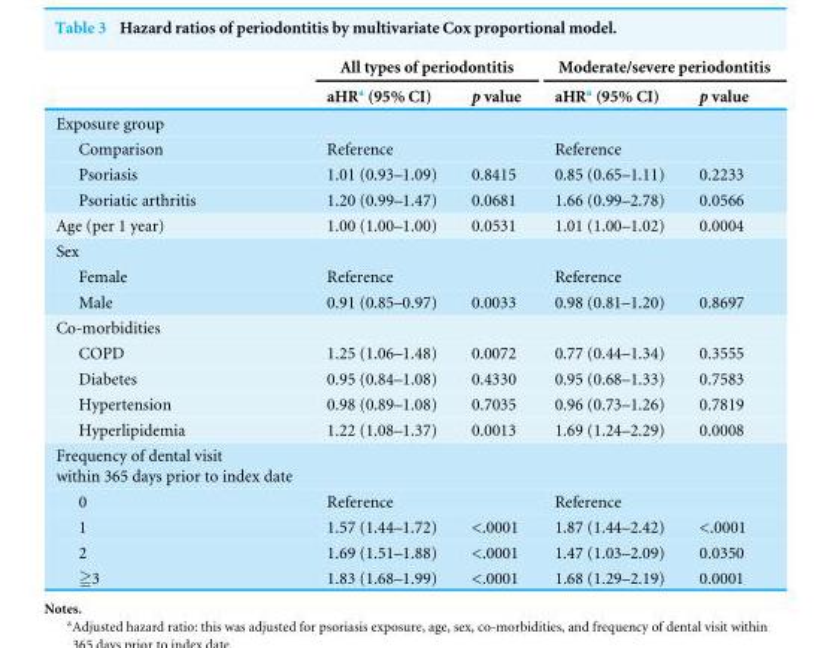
<table><thead><tr><td rowspan="2"></td><td colspan="2">All types of periodontitis</td><td colspan="2">Moderate/severe periodontitis</td></tr><tr><td>aHR<sup>a</sup> (95% CI)</td><td>p value</td><td>aHR<sup>a</sup> (95% CI)</td><td>p value</td></tr></thead><tbody><tr><td colspan="5">Exposure group</td></tr><tr><td>Comparison</td><td>Reference</td><td></td><td>Reference</td><td></td></tr><tr><td>Psoriasis</td><td>1.01 (0.93–1.09)</td><td>0.8415</td><td>0.85 (0.65–1.11)</td><td>0.2233</td></tr><tr><td>Psoriatic arthritis</td><td>1.20 (0.99–1.47)</td><td>0.0681</td><td>1.66 (0.99–2.78)</td><td>0.0566</td></tr><tr><td>Age (per 1 year)</td><td>1.00 (1.00–1.00)</td><td>0.0531</td><td>1.01 (1.00–1.02)</td><td>0.0004</td></tr><tr><td colspan="5">Sex</td></tr><tr><td>Female</td><td>Reference</td><td></td><td>Reference</td><td></td></tr><tr><td>Male</td><td>0.91 (0.85–0.97)</td><td>0.0033</td><td>0.98 (0.81–1.20)</td><td>0.8697</td></tr><tr><td colspan="5">Co-morbidities</td></tr><tr><td>COPD</td><td>1.25 (1.06–1.48)</td><td>0.0072</td><td>0.77 (0.44–1.34)</td><td>0.3555</td></tr><tr><td>Diabetes</td><td>0.95 (0.84–1.08)</td><td>0.4330</td><td>0.95 (0.68–1.33)</td><td>0.7583</td></tr><tr><td>Hypertension</td><td>0.98 (0.89–1.08)</td><td>0.7035</td><td>0.96 (0.73–1.26)</td><td>0.7819</td></tr><tr><td>Hyperlipidemia</td><td>1.22 (1.08–1.37)</td><td>0.0013</td><td>1.69 (1.24–2.29)</td><td>0.0008</td></tr><tr><td colspan="5">Frequency of dental visit within 365 days prior to index date</td></tr><tr><td>0</td><td>Reference</td><td></td><td>Reference</td><td></td></tr><tr><td>1</td><td>1.57 (1.44–1.72)</td><td>&lt;.0001</td><td>1.87 (1.44–2.42)</td><td>&lt;.0001</td></tr><tr><td>2</td><td>1.69 (1.51–1.88)</td><td>&lt;.0001</td><td>1.47 (1.03–2.09)</td><td>0.0350</td></tr><tr><td>≧3</td><td>1.83 (1.68–1.99)</td><td>&lt;.0001</td><td>1.68 (1.29–2.19)</td><td>0.0001</td></tr></tbody></table>